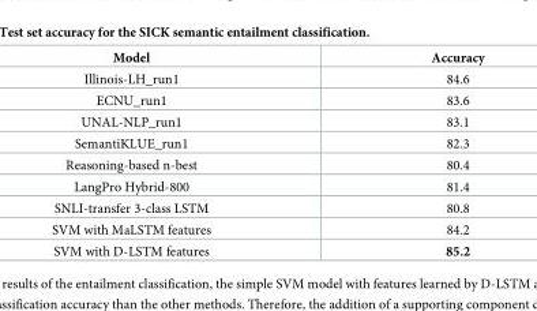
<table><thead><tr><td>Model</td><td>Accuracy</td></tr></thead><tbody><tr><td>Illinois-LH_run1</td><td>84.6</td></tr><tr><td>ECNU_run1</td><td>83.6</td></tr><tr><td>UNAL-NLP_run1</td><td>83.1</td></tr><tr><td>SemantiKLUE_run1</td><td>82.3</td></tr><tr><td>Reasoning-based n-best</td><td>80.4</td></tr><tr><td>LangPro Hybrid-800</td><td>81.4</td></tr><tr><td>SNLI-transfer 3-class LSTM</td><td>80.8</td></tr><tr><td>SVM with MaLSTM features</td><td>84.2</td></tr><tr><td>SVM with D-LSTM features</td><td>85.2</td></tr></tbody></table>